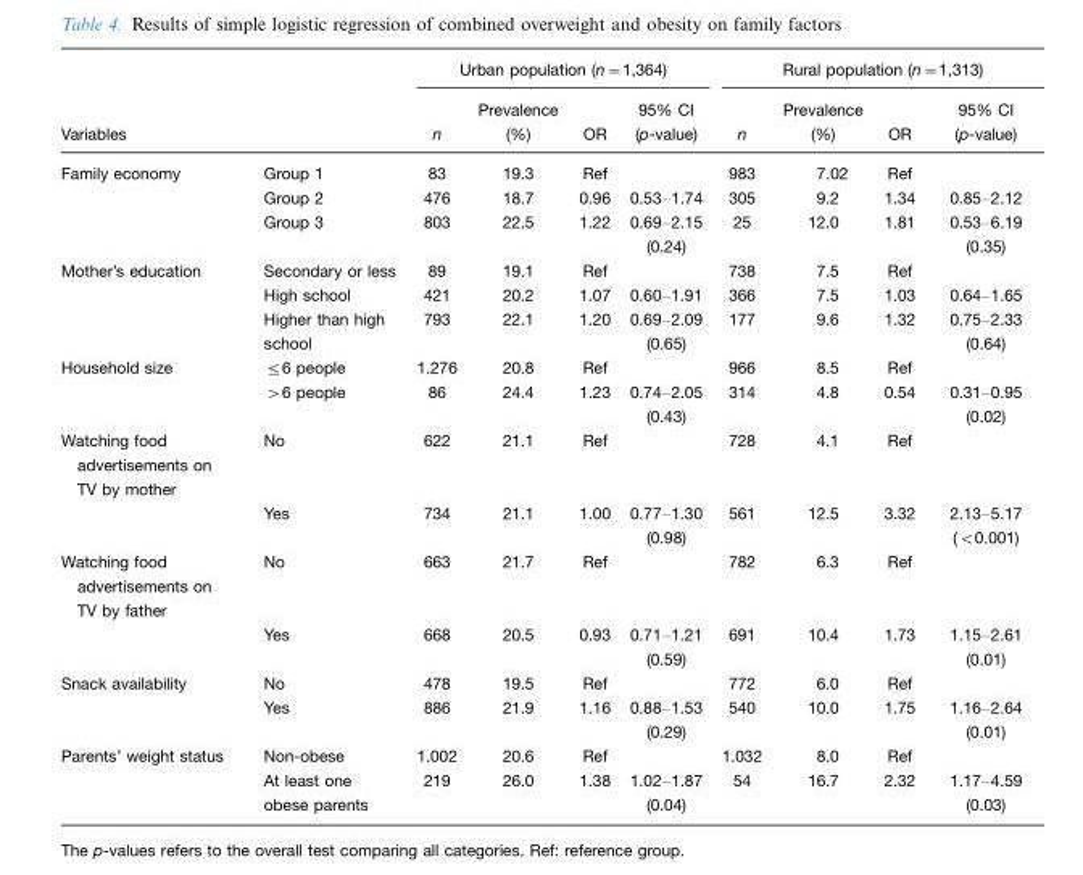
<table><thead><tr><td rowspan="2">Variables</td><td rowspan="2"></td><td colspan="4">Urban population (n=1,364)</td><td colspan="4">Rural population (n=1,313)</td></tr><tr><td>n</td><td>Prevalence (%)</td><td>OR</td><td>95% CI (p-value)</td><td>n</td><td>Prevalence (%)</td><td>OR</td><td>95% CI (p-value)</td></tr></thead><tbody><tr><td rowspan="4">Family economy</td><td>Group 1</td><td>83</td><td>19.3</td><td>Ref</td><td></td><td>983</td><td>7.02</td><td>Ref</td><td></td></tr><tr><td>Group 2</td><td>476</td><td>18.7</td><td>0.96</td><td>0.53–1.74</td><td>305</td><td>9.2</td><td>1.34</td><td>0.85–2.12</td></tr><tr><td>Group 3</td><td>803</td><td>22.5</td><td>1.22</td><td>0.69–2.15</td><td>25</td><td>12.0</td><td>1.81</td><td>0.53–6.19</td></tr><tr><td></td><td></td><td></td><td></td><td>(0.24)</td><td></td><td></td><td></td><td>(0.35)</td></tr><tr><td rowspan="4">Mother’s education</td><td>Secondary or less</td><td>89</td><td>19.1</td><td>Ref</td><td></td><td>738</td><td>7.5</td><td>Ref</td><td></td></tr><tr><td>High school</td><td>421</td><td>20.2</td><td>1.07</td><td>0.60–1.91</td><td>366</td><td>7.5</td><td>1.03</td><td>0.64–1.65</td></tr><tr><td>Higher than high</td><td>793</td><td>22.1</td><td>1.20</td><td>0.69–2.09</td><td>177</td><td>9.6</td><td>1.32</td><td>0.75–2.33</td></tr><tr><td>school</td><td></td><td></td><td></td><td>(0.65)</td><td></td><td></td><td></td><td>(0.64)</td></tr><tr><td rowspan="3">Household size</td><td>≤6 people</td><td>1.276</td><td>20.8</td><td>Ref</td><td></td><td>966</td><td>8.5</td><td>Ref</td><td></td></tr><tr><td>&gt;6 people</td><td>86</td><td>24.4</td><td>1.23</td><td>0.74–2.05</td><td>314</td><td>4.8</td><td>0.54</td><td>0.31–0.95</td></tr><tr><td></td><td></td><td></td><td></td><td>(0.43)</td><td></td><td></td><td></td><td>(0.02)</td></tr><tr><td rowspan="3">Watching food advertisements on TV by mother</td><td>No</td><td>622</td><td>21.1</td><td>Ref</td><td></td><td>728</td><td>4.1</td><td>Ref</td><td></td></tr><tr><td>Yes</td><td>734</td><td>21.1</td><td>1.00</td><td>0.77–1.30</td><td>561</td><td>12.5</td><td>3.32</td><td>2.13–5.17</td></tr><tr><td></td><td></td><td></td><td></td><td>(0.98)</td><td></td><td></td><td></td><td>(&lt;0.001)</td></tr><tr><td rowspan="3">Watching food advertisements on TV by father</td><td>No</td><td>663</td><td>21.7</td><td>Ref</td><td></td><td>782</td><td>6.3</td><td>Ref</td><td></td></tr><tr><td>Yes</td><td>668</td><td>20.5</td><td>0.93</td><td>0.71–1.21</td><td>691</td><td>10.4</td><td>1.73</td><td>1.15–2.61</td></tr><tr><td></td><td></td><td></td><td></td><td>(0.59)</td><td></td><td></td><td></td><td>(0.01)</td></tr><tr><td rowspan="3">Snack availability</td><td>No</td><td>478</td><td>19.5</td><td>Ref</td><td></td><td>772</td><td>6.0</td><td>Ref</td><td></td></tr><tr><td>Yes</td><td>886</td><td>21.9</td><td>1.16</td><td>0.88–1.53</td><td>540</td><td>10.0</td><td>1.75</td><td>1.16–2.64</td></tr><tr><td></td><td></td><td></td><td></td><td>(0.29)</td><td></td><td></td><td></td><td>(0.01)</td></tr><tr><td rowspan="2">Parents’ weight status</td><td>Non-obese</td><td>1.002</td><td>20.6</td><td>Ref</td><td></td><td>1.032</td><td>8.0</td><td>Ref</td><td></td></tr><tr><td>At least one obese parents</td><td>219</td><td>26.0</td><td>1.38</td><td>1.02–1.87 (0.04)</td><td>54</td><td>16.7</td><td>2.32</td><td>1.17–4.59 (0.03)</td></tr></tbody></table>